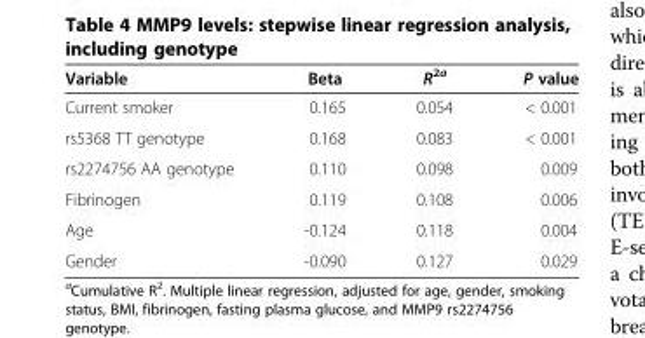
<table><thead><tr><td>Variable</td><td>Beta</td><td>R<sup>2a</sup></td><td>P value</td></tr></thead><tbody><tr><td>Current smoker</td><td>0.165</td><td>0.054</td><td>&lt; 0.001</td></tr><tr><td>rs5368 TT genotype</td><td>0.168</td><td>0.083</td><td>&lt; 0.001</td></tr><tr><td>rs2274756 AA genotype</td><td>0.110</td><td>0.098</td><td>0.009</td></tr><tr><td>Fibrinogen</td><td>0.119</td><td>0.108</td><td>0.006</td></tr><tr><td>Age</td><td>-0.124</td><td>0.118</td><td>0.004</td></tr><tr><td>Gender</td><td>-0.090</td><td>0.127</td><td>0.029</td></tr></tbody></table>